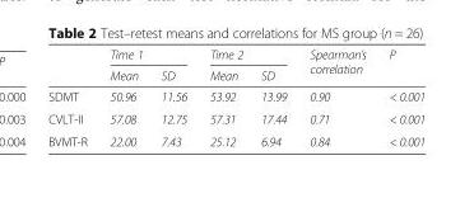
<table><thead><tr><td rowspan="2"></td><td colspan="2">Time 1</td><td colspan="2">Time 2</td><td rowspan="2">Spearman’s correlation</td><td rowspan="2">P</td></tr><tr><td>Mean</td><td>SD</td><td>Mean</td><td>SD</td></tr></thead><tbody><tr><td>SDMT</td><td>50.96</td><td>11.56</td><td>53.92</td><td>13.99</td><td>0.90</td><td>&lt; 0.001</td></tr><tr><td>CVLT-II</td><td>57.08</td><td>12.75</td><td>57.31</td><td>17.44</td><td>0.71</td><td>&lt; 0.001</td></tr><tr><td>BVMT-R</td><td>22.00</td><td>7.43</td><td>25.12</td><td>6.94</td><td>0.84</td><td>&lt; 0.001</td></tr></tbody></table>